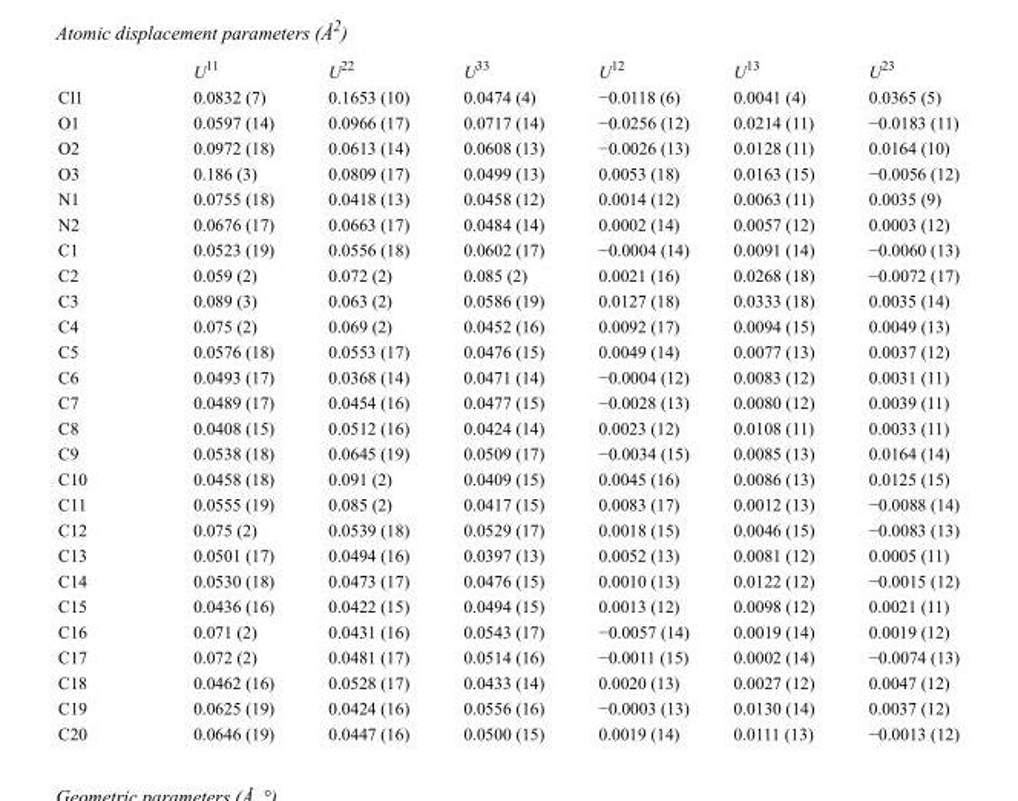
<table><thead><tr><td></td><td>U<sup>11</sup></td><td>U<sup>22</sup></td><td>U<sup>33</sup></td><td>U<sup>12</sup></td><td>U<sup>13</sup></td><td>U<sup>23</sup></td></tr></thead><tbody><tr><td>Cl1</td><td>0.0832 (7)</td><td>0.1653 (10)</td><td>0.0474 (4)</td><td>−0.0118 (6)</td><td>0.0041 (4)</td><td>0.0365 (5)</td></tr><tr><td>O1</td><td>0.0597 (14)</td><td>0.0966 (17)</td><td>0.0717 (14)</td><td>−0.0256 (12)</td><td>0.0214 (11)</td><td>−0.0183 (11)</td></tr><tr><td>O2</td><td>0.0972 (18)</td><td>0.0613 (14)</td><td>0.0608 (13)</td><td>−0.0026 (13)</td><td>0.0128 (11)</td><td>0.0164 (10)</td></tr><tr><td>O3</td><td>0.186 (3)</td><td>0.0809 (17)</td><td>0.0499 (13)</td><td>0.0053 (18)</td><td>0.0163 (15)</td><td>−0.0056 (12)</td></tr><tr><td>N1</td><td>0.0755 (18)</td><td>0.0418 (13)</td><td>0.0458 (12)</td><td>0.0014 (12)</td><td>0.0063 (11)</td><td>0.0035 (9)</td></tr><tr><td>N2</td><td>0.0676 (17)</td><td>0.0663 (17)</td><td>0.0484 (14)</td><td>0.0002 (14)</td><td>0.0057 (12)</td><td>0.0003 (12)</td></tr><tr><td>C1</td><td>0.0523 (19)</td><td>0.0556 (18)</td><td>0.0602 (17)</td><td>−0.0004 (14)</td><td>0.0091 (14)</td><td>−0.0060 (13)</td></tr><tr><td>C2</td><td>0.059 (2)</td><td>0.072 (2)</td><td>0.085 (2)</td><td>0.0021 (16)</td><td>0.0268 (18)</td><td>−0.0072 (17)</td></tr><tr><td>C3</td><td>0.089 (3)</td><td>0.063 (2)</td><td>0.0586 (19)</td><td>0.0127 (18)</td><td>0.0333 (18)</td><td>0.0035 (14)</td></tr><tr><td>C4</td><td>0.075 (2)</td><td>0.069 (2)</td><td>0.0452 (16)</td><td>0.0092 (17)</td><td>0.0094 (15)</td><td>0.0049 (13)</td></tr><tr><td>C5</td><td>0.0576 (18)</td><td>0.0553 (17)</td><td>0.0476 (15)</td><td>0.0049 (14)</td><td>0.0077 (13)</td><td>0.0037 (12)</td></tr><tr><td>C6</td><td>0.0493 (17)</td><td>0.0368 (14)</td><td>0.0471 (14)</td><td>−0.0004 (12)</td><td>0.0083 (12)</td><td>0.0031 (11)</td></tr><tr><td>C7</td><td>0.0489 (17)</td><td>0.0454 (16)</td><td>0.0477 (15)</td><td>−0.0028 (13)</td><td>0.0080 (12)</td><td>0.0039 (11)</td></tr><tr><td>C8</td><td>0.0408 (15)</td><td>0.0512 (16)</td><td>0.0424 (14)</td><td>0.0023 (12)</td><td>0.0108 (11)</td><td>0.0033 (11)</td></tr><tr><td>C9</td><td>0.0538 (18)</td><td>0.0645 (19)</td><td>0.0509 (17)</td><td>−0.0034 (15)</td><td>0.0085 (13)</td><td>0.0164 (14)</td></tr><tr><td>C10</td><td>0.0458 (18)</td><td>0.091 (2)</td><td>0.0409 (15)</td><td>0.0045 (16)</td><td>0.0086 (13)</td><td>0.0125 (15)</td></tr><tr><td>C11</td><td>0.0555 (19)</td><td>0.085 (2)</td><td>0.0417 (15)</td><td>0.0083 (17)</td><td>0.0012 (13)</td><td>−0.0088 (14)</td></tr><tr><td>C12</td><td>0.075 (2)</td><td>0.0539 (18)</td><td>0.0529 (17)</td><td>0.0018 (15)</td><td>0.0046 (15)</td><td>−0.0083 (13)</td></tr><tr><td>C13</td><td>0.0501 (17)</td><td>0.0494 (16)</td><td>0.0397 (13)</td><td>0.0052 (13)</td><td>0.0081 (12)</td><td>0.0005 (11)</td></tr><tr><td>C14</td><td>0.0530 (18)</td><td>0.0473 (17)</td><td>0.0476 (15)</td><td>0.0010 (13)</td><td>0.0122 (12)</td><td>−0.0015 (12)</td></tr><tr><td>C15</td><td>0.0436 (16)</td><td>0.0422 (15)</td><td>0.0494 (15)</td><td>0.0013 (12)</td><td>0.0098 (12)</td><td>0.0021 (11)</td></tr><tr><td>C16</td><td>0.071 (2)</td><td>0.0431 (16)</td><td>0.0543 (17)</td><td>−0.0057 (14)</td><td>0.0019 (14)</td><td>0.0019 (12)</td></tr><tr><td>C17</td><td>0.072 (2)</td><td>0.0481 (17)</td><td>0.0514 (16)</td><td>−0.0011 (15)</td><td>0.0002 (14)</td><td>−0.0074 (13)</td></tr><tr><td>C18</td><td>0.0462 (16)</td><td>0.0528 (17)</td><td>0.0433 (14)</td><td>0.0020 (13)</td><td>0.0027 (12)</td><td>0.0047 (12)</td></tr><tr><td>C19</td><td>0.0625 (19)</td><td>0.0424 (16)</td><td>0.0556 (16)</td><td>−0.0003 (13)</td><td>0.0130 (14)</td><td>0.0037 (12)</td></tr><tr><td>C20</td><td>0.0646 (19)</td><td>0.0447 (16)</td><td>0.0500 (15)</td><td>0.0019 (14)</td><td>0.0111 (13)</td><td>−0.0013 (12)</td></tr></tbody></table>